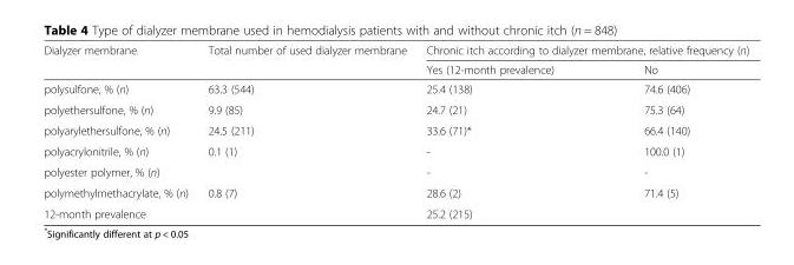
<table><thead><tr><td rowspan="2">Dialyzer membrane</td><td rowspan="2">Total number of used dialyzer membrane</td><td colspan="2">Chronic itch according to dialyzer membrane, relative frequency (n)</td></tr><tr><td>Yes (12-month prevalence)</td><td>No</td></tr></thead><tbody><tr><td>polysulfone, % (n)</td><td>63.3 (544)</td><td>25.4 (138)</td><td>74.6 (406)</td></tr><tr><td>polyethersulfone, % (n)</td><td>9.9 (85)</td><td>24.7 (21)</td><td>75.3 (64)</td></tr><tr><td>polyarylethersulfone, % (n)</td><td>24.5 (211)</td><td>33.6 (71)*</td><td>66.4 (140)</td></tr><tr><td>polyacrylonitrile, % (n)</td><td>0.1 (1)</td><td>-</td><td>100.0 (1)</td></tr><tr><td>polyester polymer, % (n)</td><td></td><td>-</td><td>-</td></tr><tr><td>polymethylmethacrylate, % (n)</td><td>0.8 (7)</td><td>28.6 (2)</td><td>71.4 (5)</td></tr><tr><td colspan="2">12-month prevalence</td><td colspan="2">25.2 (215)</td></tr></tbody></table>